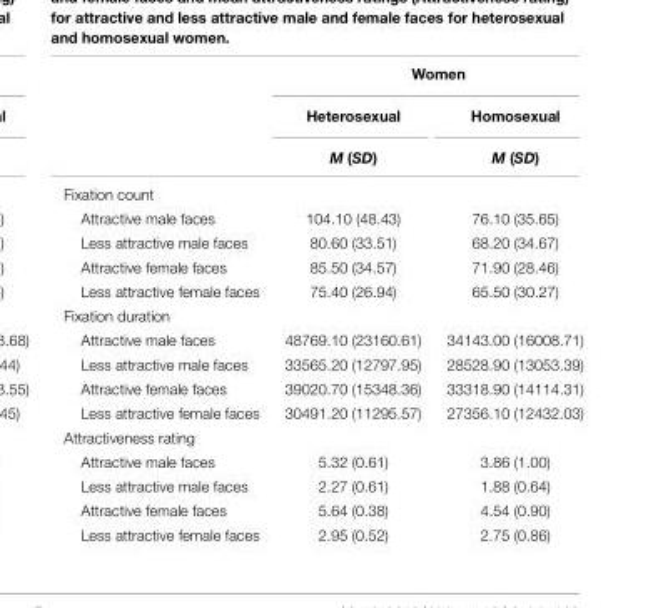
<table><thead><tr><td rowspan="3"></td><td colspan="2">Women</td></tr><tr><td rowspan="2">Heterosexual M (SD)</td><td rowspan="2">Homosexual M (SD)</td></tr><tr></tr></thead><tbody><tr><td colspan="3">Fixation count</td></tr><tr><td>Attractive male faces</td><td>104.10 (48.43)</td><td>76.10 (35.65)</td></tr><tr><td>Less attractive male faces</td><td>80.60 (33.51)</td><td>68.20 (34.67)</td></tr><tr><td>Attractive female faces</td><td>85.50 (34.57)</td><td>71.90 (28.46)</td></tr><tr><td>Less attractive female faces</td><td>75.40 (26.94)</td><td>65.50 (30.27)</td></tr><tr><td colspan="3">Fixation duration</td></tr><tr><td>Attractive male faces</td><td>48769.10 (23160.61)</td><td>34143.00 (16008.71)</td></tr><tr><td>Less attractive male faces</td><td>33565.20 (12797.95)</td><td>28528.90 (13053.39)</td></tr><tr><td>Attractive female faces</td><td>39020.70 (15348.36)</td><td>33318.90 (14114.31)</td></tr><tr><td>Less attractive female faces</td><td>30491.20 (11295.57)</td><td>27356.10 (12432.03)</td></tr><tr><td colspan="3">Attractiveness rating</td></tr><tr><td>Attractive male faces</td><td>5.32 (0.61)</td><td>3.86 (1.00)</td></tr><tr><td>Less attractive male faces</td><td>2.27 (0.61)</td><td>1.88 (0.64)</td></tr><tr><td>Attractive female faces</td><td>5.64 (0.38)</td><td>4.54 (0.90)</td></tr><tr><td>Less attractive female faces</td><td>2.95 (0.52)</td><td>2.75 (0.86)</td></tr></tbody></table>